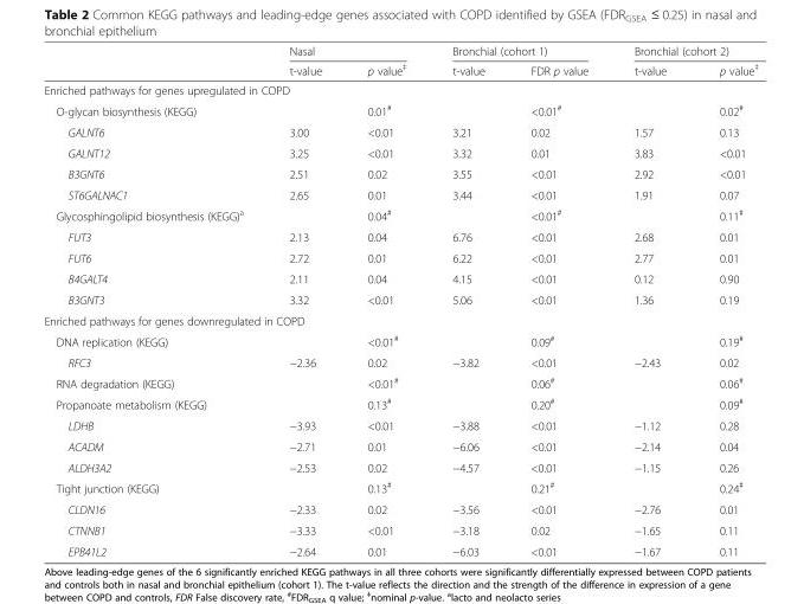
<table><thead><tr><td rowspan="2"></td><td colspan="2">Nasal</td><td colspan="2">Bronchial (cohort 1)</td><td colspan="2">Bronchial (cohort 2)</td></tr><tr><td>t-value</td><td>p value<sup>‡</sup></td><td>t-value</td><td>FDR p value</td><td>t-value</td><td>p value<sup>‡</sup></td></tr></thead><tbody><tr><td colspan="7">Enriched pathways for genes upregulated in COPD</td></tr><tr><td>O-glycan biosynthesis (KEGG)</td><td></td><td>0.01<sup>#</sup></td><td></td><td>&lt;0.01<sup>#</sup></td><td></td><td>0.02<sup>#</sup></td></tr><tr><td>GALNT6</td><td>3.00</td><td>&lt;0.01</td><td>3.21</td><td>0.02</td><td>1.57</td><td>0.13</td></tr><tr><td>GALNT12</td><td>3.25</td><td>&lt;0.01</td><td>3.32</td><td>0.01</td><td>3.83</td><td>&lt;0.01</td></tr><tr><td>B3GNT6</td><td>2.51</td><td>0.02</td><td>3.55</td><td>&lt;0.01</td><td>2.92</td><td>&lt;0.01</td></tr><tr><td>ST6GALNAC1</td><td>2.65</td><td>0.01</td><td>3.44</td><td>&lt;0.01</td><td>1.91</td><td>0.07</td></tr><tr><td>Glycosphingolipid biosynthesis (KEGG)<sup>a</sup></td><td></td><td>0.04<sup>#</sup></td><td></td><td>&lt;0.01<sup>#</sup></td><td></td><td>0.11<sup>#</sup></td></tr><tr><td>FUT3</td><td>2.13</td><td>0.04</td><td>6.76</td><td>&lt;0.01</td><td>2.68</td><td>0.01</td></tr><tr><td>FUT6</td><td>2.72</td><td>0.01</td><td>6.22</td><td>&lt;0.01</td><td>2.77</td><td>0.01</td></tr><tr><td>B4GALT4</td><td>2.11</td><td>0.04</td><td>4.15</td><td>&lt;0.01</td><td>0.12</td><td>0.90</td></tr><tr><td>B3GNT3</td><td>3.32</td><td>&lt;0.01</td><td>5.06</td><td>&lt;0.01</td><td>1.36</td><td>0.19</td></tr><tr><td colspan="7">Enriched pathways for genes downregulated in COPD</td></tr><tr><td>DNA replication (KEGG)</td><td></td><td>&lt;0.01<sup>#</sup></td><td></td><td>0.09<sup>#</sup></td><td></td><td>0.19<sup>#</sup></td></tr><tr><td>RFC3</td><td>−2.36</td><td>0.02</td><td>−3.82</td><td>&lt;0.01</td><td>−2.43</td><td>0.02</td></tr><tr><td>RNA degradation (KEGG)</td><td></td><td>&lt;0.01<sup>#</sup></td><td></td><td>0.06<sup>#</sup></td><td></td><td>0.06<sup>#</sup></td></tr><tr><td>Propanoate metabolism (KEGG)</td><td></td><td>0.13<sup>#</sup></td><td></td><td>0.20<sup>#</sup></td><td></td><td>0.09<sup>#</sup></td></tr><tr><td>LDHB</td><td>−3.93</td><td>&lt;0.01</td><td>−3.88</td><td>&lt;0.01</td><td>−1.12</td><td>0.28</td></tr><tr><td>ACADM</td><td>−2.71</td><td>0.01</td><td>−6.06</td><td>&lt;0.01</td><td>−2.14</td><td>0.04</td></tr><tr><td>ALDH3A2</td><td>−2.53</td><td>0.02</td><td>−4.57</td><td>&lt;0.01</td><td>−1.15</td><td>0.26</td></tr><tr><td>Tight junction (KEGG)</td><td></td><td>0.13<sup>#</sup></td><td></td><td>0.21<sup>#</sup></td><td></td><td>0.24<sup>#</sup></td></tr><tr><td>CLDN16</td><td>−2.33</td><td>0.02</td><td>−3.56</td><td>&lt;0.01</td><td>−2.76</td><td>0.01</td></tr><tr><td>CTNNB1</td><td>−3.33</td><td>&lt;0.01</td><td>−3.18</td><td>0.02</td><td>−1.65</td><td>0.11</td></tr><tr><td>EPB41L2</td><td>−2.64</td><td>0.01</td><td>−6.03</td><td>&lt;0.01</td><td>−1.67</td><td>0.11</td></tr></tbody></table>